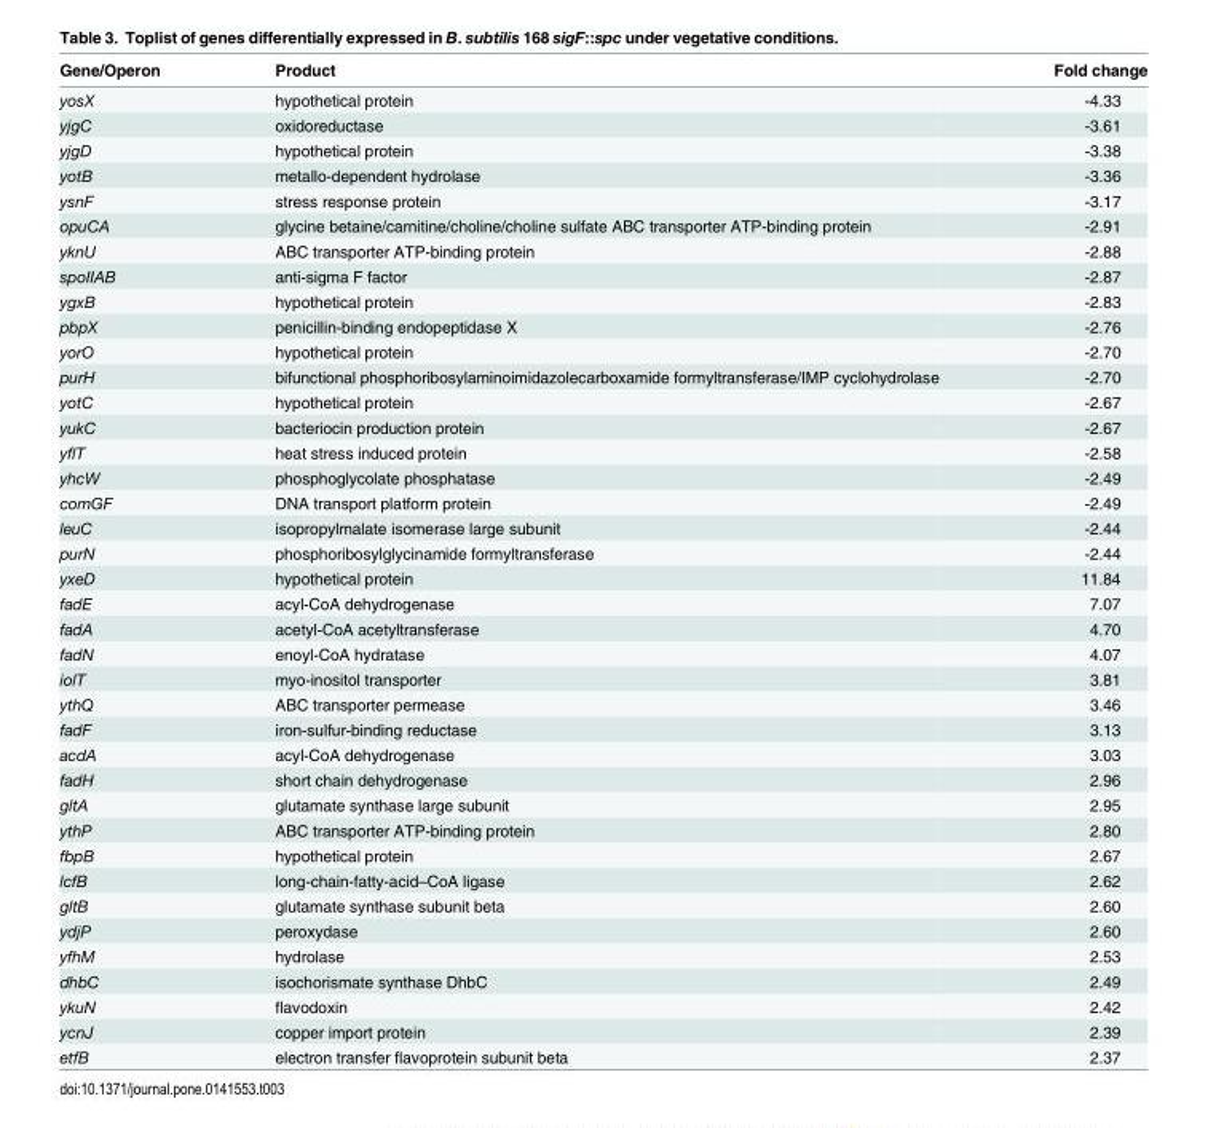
<table><thead><tr><td>Gene/Operon</td><td>Product</td><td>Fold change</td></tr></thead><tbody><tr><td>yosX</td><td>hypothetical protein</td><td>-4.33</td></tr><tr><td>yjgC</td><td>oxidoreductase</td><td>-3.61</td></tr><tr><td>yjgD</td><td>hypothetical protein</td><td>-3.38</td></tr><tr><td>yotB</td><td>metallo-dependent hydrolase</td><td>-3.36</td></tr><tr><td>ysnF</td><td>stress response protein</td><td>-3.17</td></tr><tr><td>opuCA</td><td>glycine betaine/carnitine/choline/choline sulfate ABC transporter ATP-binding protein</td><td>-2.91</td></tr><tr><td>yknU</td><td>ABC transporter ATP-binding protein</td><td>-2.88</td></tr><tr><td>spoIIAB</td><td>anti-sigma F factor</td><td>-2.87</td></tr><tr><td>ygxB</td><td>hypothetical protein</td><td>-2.83</td></tr><tr><td>pbpX</td><td>penicillin-binding endopeptidase X</td><td>-2.76</td></tr><tr><td>yorO</td><td>hypothetical protein</td><td>-2.70</td></tr><tr><td>purH</td><td>bifunctional phosphoribosylaminoimidazolecarboxamide formyltransferase/IMP cyclohydrolase</td><td>-2.70</td></tr><tr><td>yotC</td><td>hypothetical protein</td><td>-2.67</td></tr><tr><td>yukC</td><td>bacteriocin production protein</td><td>-2.67</td></tr><tr><td>yflT</td><td>heat stress induced protein</td><td>-2.58</td></tr><tr><td>yhcW</td><td>phosphoglycolate phosphatase</td><td>-2.49</td></tr><tr><td>comGF</td><td>DNA transport platform protein</td><td>-2.49</td></tr><tr><td>leuC</td><td>isopropylmalate isomerase large subunit</td><td>-2.44</td></tr><tr><td>purN</td><td>phosphoribosylglycinamide formyltransferase</td><td>-2.44</td></tr><tr><td>yxeD</td><td>hypothetical protein</td><td>11.84</td></tr><tr><td>fadE</td><td>acyl-CoA dehydrogenase</td><td>7.07</td></tr><tr><td>fadA</td><td>acetyl-CoA acetyltransferase</td><td>4.70</td></tr><tr><td>fadN</td><td>enoyl-CoA hydratase</td><td>4.07</td></tr><tr><td>iolT</td><td>myo-inositol transporter</td><td>3.81</td></tr><tr><td>ythQ</td><td>ABC transporter permease</td><td>3.46</td></tr><tr><td>fadF</td><td>iron-sulfur-binding reductase</td><td>3.13</td></tr><tr><td>acdA</td><td>acyl-CoA dehydrogenase</td><td>3.03</td></tr><tr><td>fadH</td><td>short chain dehydrogenase</td><td>2.96</td></tr><tr><td>gltA</td><td>glutamate synthase large subunit</td><td>2.95</td></tr><tr><td>ythP</td><td>ABC transporter ATP-binding protein</td><td>2.80</td></tr><tr><td>fbpB</td><td>hypothetical protein</td><td>2.67</td></tr><tr><td>lcfB</td><td>long-chain-fatty-acid–CoA ligase</td><td>2.62</td></tr><tr><td>gltB</td><td>glutamate synthase subunit beta</td><td>2.60</td></tr><tr><td>ydjP</td><td>peroxydase</td><td>2.60</td></tr><tr><td>yfhM</td><td>hydrolase</td><td>2.53</td></tr><tr><td>dhbC</td><td>isochorismate synthase DhbC</td><td>2.49</td></tr><tr><td>ykuN</td><td>flavodoxin</td><td>2.42</td></tr><tr><td>ycnJ</td><td>copper import protein</td><td>2.39</td></tr><tr><td>etfB</td><td>electron transfer flavoprotein subunit beta</td><td>2.37</td></tr></tbody></table>